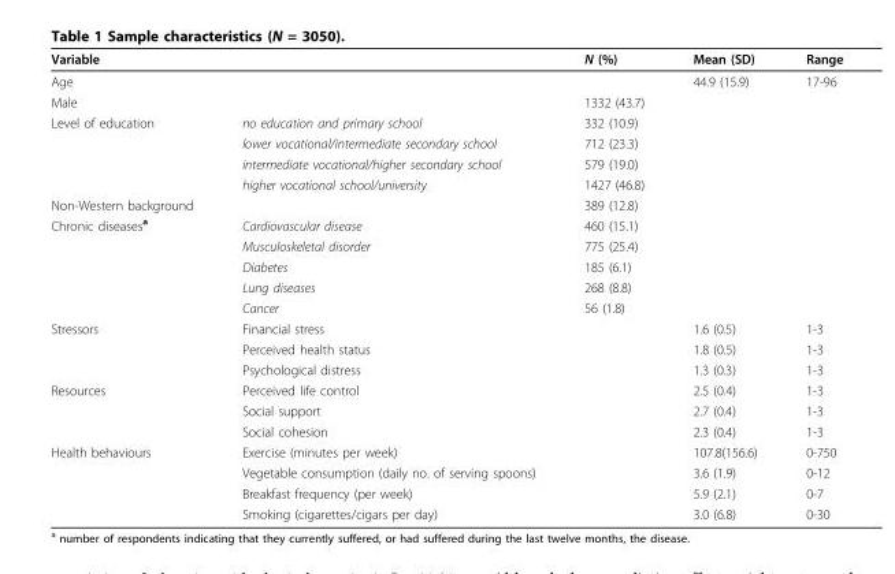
<table><thead><tr><td>Variable</td><td></td><td>N (%)</td><td>Mean (SD)</td><td>Range</td></tr></thead><tbody><tr><td>Age</td><td></td><td></td><td>44.9 (15.9)</td><td>17-96</td></tr><tr><td>Male</td><td></td><td>1332 (43.7)</td><td></td><td></td></tr><tr><td rowspan="4">Level of education</td><td>no education and primary school</td><td>332 (10.9)</td><td></td><td></td></tr><tr><td>lower vocational/intermediate secondary school</td><td>712 (23.3)</td><td></td><td></td></tr><tr><td>intermediate vocational/higher secondary school</td><td>579 (19.0)</td><td></td><td></td></tr><tr><td>higher vocational school/university</td><td>1427 (46.8)</td><td></td><td></td></tr><tr><td>Non-Western background</td><td></td><td>389 (12.8)</td><td></td><td></td></tr><tr><td rowspan="5">Chronic diseases<sup>a</sup></td><td>Cardiovascular disease</td><td>460 (15.1)</td><td></td><td></td></tr><tr><td>Musculoskeletal disorder</td><td>775 (25.4)</td><td></td><td></td></tr><tr><td>Diabetes</td><td>185 (6.1)</td><td></td><td></td></tr><tr><td>Lung diseases</td><td>268 (8.8)</td><td></td><td></td></tr><tr><td>Cancer</td><td>56 (1.8)</td><td></td><td></td></tr><tr><td rowspan="3">Stressors</td><td>Financial stress</td><td></td><td>1.6 (0.5)</td><td>1-3</td></tr><tr><td>Perceived health status</td><td></td><td>1.8 (0.5)</td><td>1-3</td></tr><tr><td>Psychological distress</td><td></td><td>1.3 (0.3)</td><td>1-3</td></tr><tr><td rowspan="3">Resources</td><td>Perceived life control</td><td></td><td>2.5 (0.4)</td><td>1-3</td></tr><tr><td>Social support</td><td></td><td>2.7 (0.4)</td><td>1-3</td></tr><tr><td>Social cohesion</td><td></td><td>2.3 (0.4)</td><td>1-3</td></tr><tr><td rowspan="4">Health behaviours</td><td>Exercise (minutes per week)</td><td></td><td>107.8(156.6)</td><td>0-750</td></tr><tr><td>Vegetable consumption (daily no. of serving spoons)</td><td></td><td>3.6 (1.9)</td><td>0-12</td></tr><tr><td>Breakfast frequency (per week)</td><td></td><td>5.9 (2.1)</td><td>0-7</td></tr><tr><td>Smoking (cigarettes/cigars per day)</td><td></td><td>3.0 (6.8)</td><td>0-30</td></tr></tbody></table>